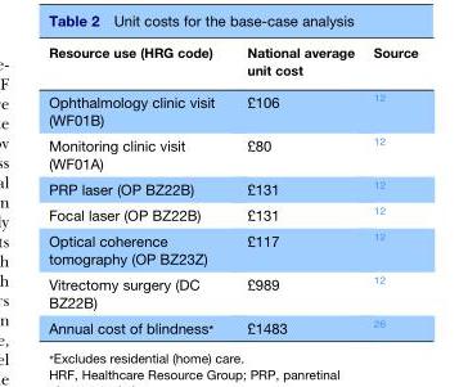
<table><thead><tr><td>Resource use (HRG code)</td><td>National average unit cost</td><td>Source</td></tr></thead><tbody><tr><td>Ophthalmology clinic visit (WF01B)</td><td>£106</td><td>12</td></tr><tr><td>Monitoring clinic visit (WF01A)</td><td>£80</td><td>12</td></tr><tr><td>PRP laser (OP BZ22B)</td><td>£131</td><td>12</td></tr><tr><td>Focal laser (OP BZ22B)</td><td>£131</td><td>12</td></tr><tr><td>Optical coherence tomography (OP BZ23Z)</td><td>£117</td><td>12</td></tr><tr><td>Vitrectomy surgery (DC BZ22B)</td><td>£989</td><td>12</td></tr><tr><td>Annual cost of blindness*</td><td>£1483</td><td>26</td></tr></tbody></table>